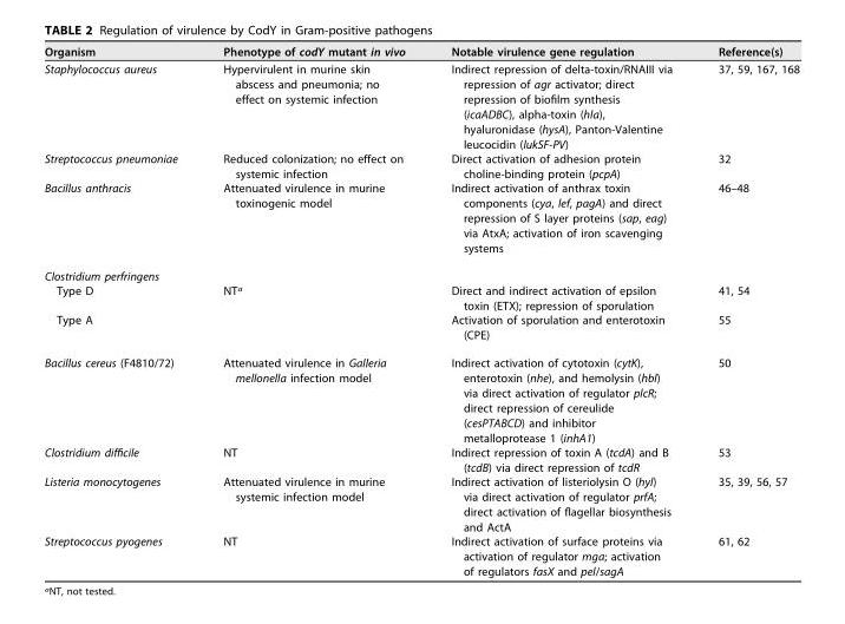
<table><thead><tr><td>Organism</td><td>Phenotype of codY mutant in vivo</td><td>Notable virulence gene regulation</td><td>Reference(s)</td></tr></thead><tbody><tr><td>Staphylococcus aureus</td><td>Hypervirulent in murine skin abscess and pneumonia; no effect on systemic infection</td><td>Indirect repression of delta-toxin/RNAIII via repression of agr activator; direct repression of biofilm synthesis (icaADBC), alpha-toxin (hla), hyaluronidase (hysA), Panton-Valentine leucocidin (lukSF-PV)</td><td>37, 59, 167, 168</td></tr><tr><td>Streptococcus pneumoniae</td><td>Reduced colonization; no effect on systemic infection</td><td>Direct activation of adhesion protein choline-binding protein (pcpA)</td><td>32</td></tr><tr><td>Bacillus anthracis</td><td>Attenuated virulence in murine toxinogenic model</td><td>Indirect activation of anthrax toxin components (cya, lef, pagA) and direct repression of S layer proteins (sap, eag) via AtxA; activation of iron scavenging systems</td><td>46–48</td></tr><tr><td colspan="4">Clostridium perfringens</td></tr><tr><td>Type D</td><td>NT<sup>a</sup></td><td>Direct and indirect activation of epsilon toxin (ETX); repression of sporulation</td><td>41, 54</td></tr><tr><td>Type A</td><td></td><td>Activation of sporulation and enterotoxin (CPE)</td><td>55</td></tr><tr><td>Bacillus cereus (F4810/72)</td><td>Attenuated virulence in Galleria mellonella infection model</td><td>Indirect activation of cytotoxin (cytK), enterotoxin (nhe), and hemolysin (hbl) via direct activation of regulator plcR; direct repression of cereulide (cesPTABCD) and inhibitor metalloprotease 1 (inhA1)</td><td>50</td></tr><tr><td>Clostridium difficile</td><td>NT</td><td>Indirect repression of toxin A (tcdA) and B (tcdB) via direct repression of tcdR</td><td>53</td></tr><tr><td>Listeria monocytogenes</td><td>Attenuated virulence in murine systemic infection model</td><td>Indirect activation of listeriolysin O (hyl) via direct activation of regulator prfA; direct activation of flagellar biosynthesis and ActA</td><td>35, 39, 56, 57</td></tr><tr><td>Streptococcus pyogenes</td><td>NT</td><td>Indirect activation of surface proteins via activation of regulator mga; activation of regulators fasX and pel/sagA</td><td>61, 62</td></tr></tbody></table>